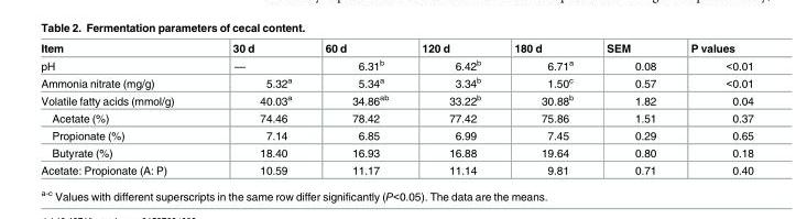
<table><thead><tr><td>Item</td><td>30 d</td><td>60 d</td><td>120 d</td><td>180 d</td><td>SEM</td><td>P values</td></tr></thead><tbody><tr><td>pH</td><td>—</td><td>6.31<sup>b</sup></td><td>6.42<sup>b</sup></td><td>6.71<sup>a</sup></td><td>0.08</td><td>&lt;0.01</td></tr><tr><td>Ammonia nitrate (mg/g)</td><td>5.32<sup>a</sup></td><td>5.34<sup>a</sup></td><td>3.34<sup>b</sup></td><td>1.50<sup>c</sup></td><td>0.57</td><td>&lt;0.01</td></tr><tr><td>Volatile fatty acids (mmol/g)</td><td>40.03<sup>a</sup></td><td>34.86<sup>ab</sup></td><td>33.22<sup>b</sup></td><td>30.88<sup>b</sup></td><td>1.82</td><td>0.04</td></tr><tr><td>Acetate (%)</td><td>74.46</td><td>78.42</td><td>77.42</td><td>75.86</td><td>1.51</td><td>0.37</td></tr><tr><td>Propionate (%)</td><td>7.14</td><td>6.85</td><td>6.99</td><td>7.45</td><td>0.29</td><td>0.65</td></tr><tr><td>Butyrate (%)</td><td>18.40</td><td>16.93</td><td>16.88</td><td>19.64</td><td>0.80</td><td>0.18</td></tr><tr><td>Acetate: Propionate (A: P)</td><td>10.59</td><td>11.17</td><td>11.14</td><td>9.81</td><td>0.71</td><td>0.40</td></tr></tbody></table>